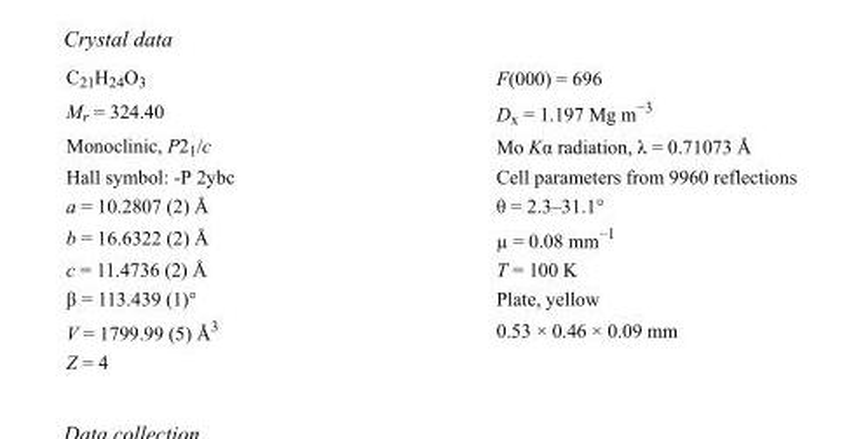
<table><tbody><tr><td>C<sub>21</sub>H<sub>24</sub>O<sub>3</sub></td><td>F(000) = 696</td></tr><tr><td>M<sub>r</sub> = 324.40</td><td>D<sub>x</sub> = 1.197 Mg m<sup>−3</sup></td></tr><tr><td>Monoclinic, P2<sub>1</sub>/c</td><td>Mo Kα radiation, λ = 0.71073 Å</td></tr><tr><td>Hall symbol: -P 2ybc</td><td>Cell parameters from 9960 reflections</td></tr><tr><td>a = 10.2807 (2) Å</td><td>θ = 2.3–31.1°</td></tr><tr><td>b = 16.6322 (2) Å</td><td>µ = 0.08 mm<sup>−1</sup></td></tr><tr><td>c = 11.4736 (2) Å</td><td>T = 100 K</td></tr><tr><td>β = 113.439 (1)°</td><td>Plate, yellow</td></tr><tr><td>V = 1799.99 (5) Å<sup>3</sup></td><td>0.53 × 0.46 × 0.09 mm</td></tr><tr><td>Z = 4</td><td></td></tr></tbody></table>